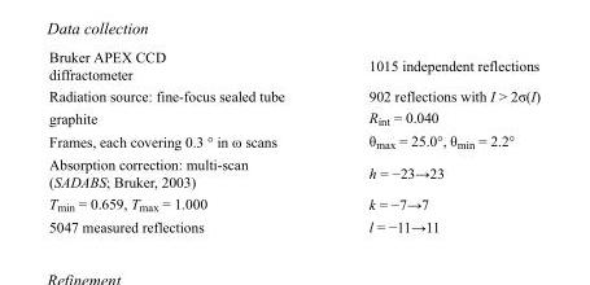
<table><tbody><tr><td>Bruker APEX CCD diffractometer</td><td>1015 independent reflections</td></tr><tr><td>Radiation source: fine-focus sealed tube</td><td>902 reflections with I &gt; 2σ(I)</td></tr><tr><td>graphite</td><td>R<sub>int</sub> = 0.040</td></tr><tr><td>Frames, each covering 0.3 ° in ω scans</td><td>θ<sub>max</sub> = 25.0°, θ<sub>min</sub> = 2.2°</td></tr><tr><td>Absorption correction: multi-scan (SADABS; Bruker, 2003)</td><td>h = −23→23</td></tr><tr><td>T<sub>min</sub> = 0.659, T<sub>max</sub> = 1.000</td><td>k = −7→7</td></tr><tr><td>5047 measured reflections</td><td>l = −11→11</td></tr></tbody></table>